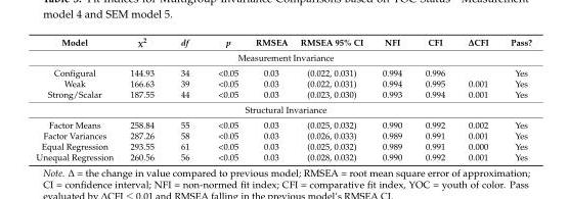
<table><thead><tr><td>Model</td><td>χ<sup>2</sup></td><td>df</td><td>p</td><td>RMSEA</td><td>RMSEA 95% CI</td><td>NFI</td><td>CFI</td><td>∆CFI</td><td>Pass?</td></tr></thead><tbody><tr><td colspan="10">Measurement Invariance</td></tr><tr><td>Configural</td><td>144.93</td><td>34</td><td>&lt;0.05</td><td>0.03</td><td>(0.022, 0.031)</td><td>0.994</td><td>0.996</td><td></td><td>Yes</td></tr><tr><td>Weak</td><td>166.63</td><td>39</td><td>&lt;0.05</td><td>0.03</td><td>(0.022, 0.031)</td><td>0.994</td><td>0.995</td><td>0.001</td><td>Yes</td></tr><tr><td>Strong/Scalar</td><td>187.55</td><td>44</td><td>&lt;0.05</td><td>0.03</td><td>(0.023, 0.030)</td><td>0.993</td><td>0.994</td><td>0.001</td><td>Yes</td></tr><tr><td colspan="10">Structural Invariance</td></tr><tr><td>Factor Means</td><td>258.84</td><td>55</td><td>&lt;0.05</td><td>0.03</td><td>(0.025, 0.032)</td><td>0.990</td><td>0.992</td><td>0.002</td><td>Yes</td></tr><tr><td>Factor Variances</td><td>287.26</td><td>58</td><td>&lt;0.05</td><td>0.03</td><td>(0.026, 0.033)</td><td>0.989</td><td>0.991</td><td>0.001</td><td>Yes</td></tr><tr><td>Equal Regression</td><td>293.55</td><td>61</td><td>&lt;0.05</td><td>0.03</td><td>(0.025, 0.032)</td><td>0.989</td><td>0.991</td><td>0.000</td><td>Yes</td></tr><tr><td>Unequal Regression</td><td>260.56</td><td>56</td><td>&lt;0.05</td><td>0.03</td><td>(0.028, 0.032)</td><td>0.990</td><td>0.992</td><td>0.001</td><td>Yes</td></tr></tbody></table>